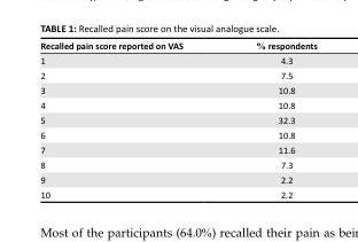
<table><thead><tr><td>Recalled pain score reported on VAS</td><td>% respondents</td></tr></thead><tbody><tr><td>1</td><td>4.3</td></tr><tr><td>2</td><td>7.5</td></tr><tr><td>3</td><td>10.8</td></tr><tr><td>4</td><td>10.8</td></tr><tr><td>5</td><td>32.3</td></tr><tr><td>6</td><td>10.8</td></tr><tr><td>7</td><td>11.6</td></tr><tr><td>8</td><td>7.3</td></tr><tr><td>9</td><td>2.2</td></tr><tr><td>10</td><td>2.2</td></tr></tbody></table>